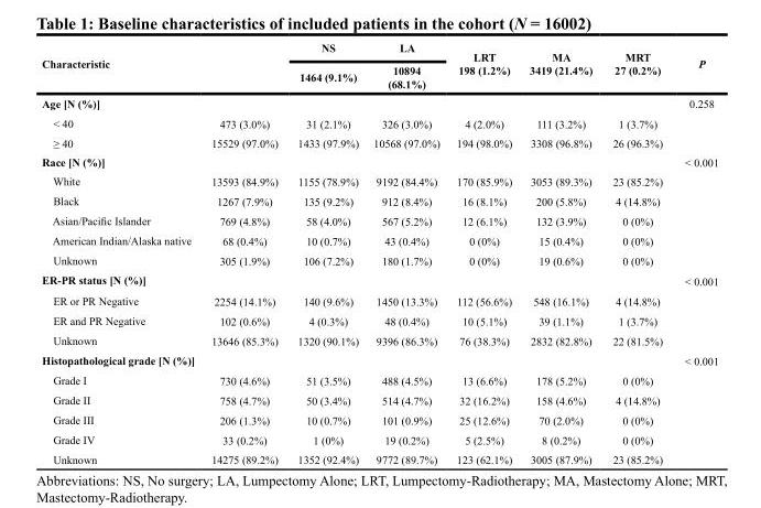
<table><thead><tr><td rowspan="2">Characteristic</td><td rowspan="2"></td><td rowspan="2">NS 1464 (9.1%)</td><td rowspan="2">LA 10894 (68.1%)</td><td rowspan="2">LRT 198 (1.2%)</td><td rowspan="2">MA 3419 (21.4%)</td><td rowspan="2">MRT 27 (0.2%)</td><td rowspan="2">P</td></tr><tr></tr></thead><tbody><tr><td>Age [N (%)]</td><td></td><td></td><td></td><td></td><td></td><td></td><td>0.258</td></tr><tr><td>&lt; 40</td><td>473 (3.0%)</td><td>31 (2.1%)</td><td>326 (3.0%)</td><td>4 (2.0%)</td><td>111 (3.2%)</td><td>1 (3.7%)</td><td></td></tr><tr><td>≥ 40</td><td>15529 (97.0%)</td><td>1433 (97.9%)</td><td>10568 (97.0%)</td><td>194 (98.0%)</td><td>3308 (96.8%)</td><td>26 (96.3%)</td><td></td></tr><tr><td>Race [N (%)]</td><td></td><td></td><td></td><td></td><td></td><td></td><td>&lt; 0.001</td></tr><tr><td>White</td><td>13593 (84.9%)</td><td>1155 (78.9%)</td><td>9192 (84.4%)</td><td>170 (85.9%)</td><td>3053 (89.3%)</td><td>23 (85.2%)</td><td></td></tr><tr><td>Black</td><td>1267 (7.9%)</td><td>135 (9.2%)</td><td>912 (8.4%)</td><td>16 (8.1%)</td><td>200 (5.8%)</td><td>4 (14.8%)</td><td></td></tr><tr><td>Asian/Pacific Islander</td><td>769 (4.8%)</td><td>58 (4.0%)</td><td>567 (5.2%)</td><td>12 (6.1%)</td><td>132 (3.9%)</td><td>0 (0%)</td><td></td></tr><tr><td>American Indian/Alaska native</td><td>68 (0.4%)</td><td>10 (0.7%)</td><td>43 (0.4%)</td><td>0 (0%)</td><td>15 (0.4%)</td><td>0 (0%)</td><td></td></tr><tr><td>Unknown</td><td>305 (1.9%)</td><td>106 (7.2%)</td><td>180 (1.7%)</td><td>0 (0%)</td><td>19 (0.6%)</td><td>0 (0%)</td><td></td></tr><tr><td>ER-PR status [N (%)]</td><td></td><td></td><td></td><td></td><td></td><td></td><td>&lt; 0.001</td></tr><tr><td>ER or PR Negative</td><td>2254 (14.1%)</td><td>140 (9.6%)</td><td>1450 (13.3%)</td><td>112 (56.6%)</td><td>548 (16.1%)</td><td>4 (14.8%)</td><td></td></tr><tr><td>ER and PR Negative</td><td>102 (0.6%)</td><td>4 (0.3%)</td><td>48 (0.4%)</td><td>10 (5.1%)</td><td>39 (1.1%)</td><td>1 (3.7%)</td><td></td></tr><tr><td>Unknown</td><td>13646 (85.3%)</td><td>1320 (90.1%)</td><td>9396 (86.3%)</td><td>76 (38.3%)</td><td>2832 (82.8%)</td><td>22 (81.5%)</td><td></td></tr><tr><td>Histopathological grade [N (%)]</td><td></td><td></td><td></td><td></td><td></td><td></td><td>&lt; 0.001</td></tr><tr><td>Grade I</td><td>730 (4.6%)</td><td>51 (3.5%)</td><td>488 (4.5%)</td><td>13 (6.6%)</td><td>178 (5.2%)</td><td>0 (0%)</td><td></td></tr><tr><td>Grade II</td><td>758 (4.7%)</td><td>50 (3.4%)</td><td>514 (4.7%)</td><td>32 (16.2%)</td><td>158 (4.6%)</td><td>4 (14.8%)</td><td></td></tr><tr><td>Grade III</td><td>206 (1.3%)</td><td>10 (0.7%)</td><td>101 (0.9%)</td><td>25 (12.6%)</td><td>70 (2.0%)</td><td>0 (0%)</td><td></td></tr><tr><td>Grade IV</td><td>33 (0.2%)</td><td>1 (0%)</td><td>19 (0.2%)</td><td>5 (2.5%)</td><td>8 (0.2%)</td><td>0 (0%)</td><td></td></tr><tr><td>Unknown</td><td>14275 (89.2%)</td><td>1352 (92.4%)</td><td>9772 (89.7%)</td><td>123 (62.1%)</td><td>3005 (87.9%)</td><td>23 (85.2%)</td><td></td></tr></tbody></table>